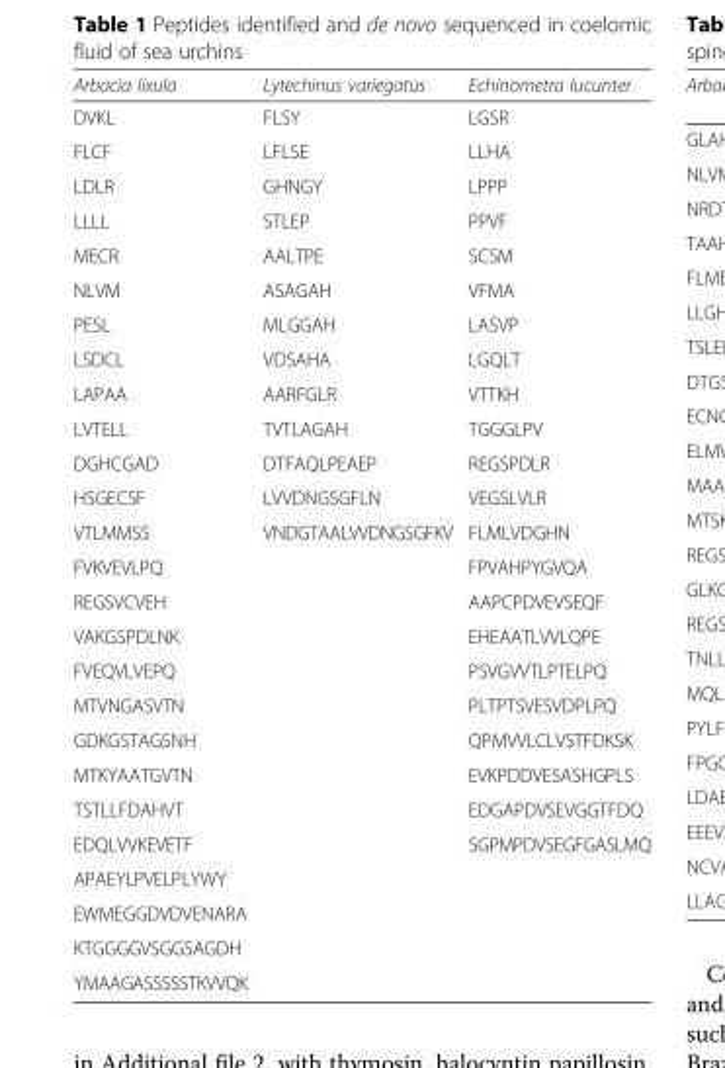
<table><thead><tr><td>Arbacia lixula</td><td>Lytechinus variegatus</td><td>Echinometra lucunter</td></tr></thead><tbody><tr><td>DVKL</td><td>FLSY</td><td>LGSR</td></tr><tr><td>FLCF</td><td>LFLSE</td><td>LLHA</td></tr><tr><td>LDLR</td><td>GHNGY</td><td>LPPP</td></tr><tr><td>LLLL</td><td>STLEP</td><td>PPVF</td></tr><tr><td>MECR</td><td>AALTPE</td><td>SCSM</td></tr><tr><td>NLVM</td><td>ASAGAH</td><td>VFMA</td></tr><tr><td>PESL</td><td>MLGGAH</td><td>LASVP</td></tr><tr><td>LSDCL</td><td>VDSAHA</td><td>LGQLT</td></tr><tr><td>LAPAA</td><td>AARFGLR</td><td>VTTKH</td></tr><tr><td>LVTELL</td><td>TVTLAGAH</td><td>TGGGLPV</td></tr><tr><td>DGHCGAD</td><td>DTFAQLPEAEP</td><td>REGSPDLR</td></tr><tr><td>HSGECSF</td><td>LVVDNGSGFLN</td><td>VEGSLVLR</td></tr><tr><td>VTLMMSS</td><td>VNDGTAALVVDNGSGFKV</td><td>FLMLVDGHN</td></tr><tr><td>FVKVEVLPQ</td><td></td><td>FPVAHPYGVQA</td></tr><tr><td>REGSVCVEH</td><td></td><td>AAPCPDVEVSEQF</td></tr><tr><td>VAKGSPDLNK</td><td></td><td>EHEAATLVVLQPE</td></tr><tr><td>FVEQVLVEPQ</td><td></td><td>PSVGVVTLPTELPQ</td></tr><tr><td>MTVNGASVTN</td><td></td><td>PLTPTSVESVDPLPQ</td></tr><tr><td>GDKGSTAGSNH</td><td></td><td>QPMVVLCLVSTFDKSK</td></tr><tr><td>MTKYAATGVTN</td><td></td><td>EVKPDDVESASHGPLS</td></tr><tr><td>TSTLLFDAHVT</td><td></td><td>EDGAPDVSEVGGTFDQ</td></tr><tr><td>EDQLVVKEVETF</td><td></td><td>SGPMPDVSEGFGASLMQ</td></tr><tr><td colspan="3">APAEYLPVELPLYWY</td></tr><tr><td colspan="3">EWMEGGDVDVENARA</td></tr><tr><td colspan="3">KTGGGGVSGGSAGDH</td></tr><tr><td>YMAAGASSSSSTKVVQK</td><td></td><td></td></tr></tbody></table>